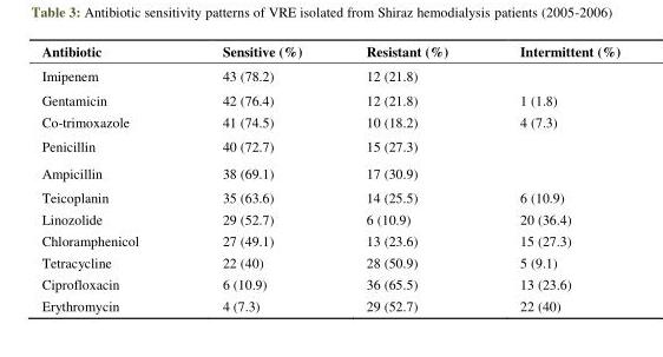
<table><thead><tr><td>Antibiotic</td><td>Sensitive (%)</td><td>Resistant (%)</td><td>Intermittent (%)</td></tr></thead><tbody><tr><td>Imipenem</td><td>43 (78.2)</td><td>12 (21.8)</td><td></td></tr><tr><td>Gentamicin</td><td>42 (76.4)</td><td>12 (21.8)</td><td>1 (1.8)</td></tr><tr><td>Co-trimoxazole</td><td>41 (74.5)</td><td>10 (18.2)</td><td>4 (7.3)</td></tr><tr><td>Penicillin</td><td>40 (72.7)</td><td>15 (27.3)</td><td></td></tr><tr><td>Ampicillin</td><td>38 (69.1)</td><td>17 (30.9)</td><td></td></tr><tr><td>Teicoplanin</td><td>35 (63.6)</td><td>14 (25.5)</td><td>6 (10.9)</td></tr><tr><td>Linozolide</td><td>29 (52.7)</td><td>6 (10.9)</td><td>20 (36.4)</td></tr><tr><td>Chloramphenicol</td><td>27 (49.1)</td><td>13 (23.6)</td><td>15 (27.3)</td></tr><tr><td>Tetracycline</td><td>22 (40)</td><td>28 (50.9)</td><td>5 (9.1)</td></tr><tr><td>Ciprofloxacin</td><td>6 (10.9)</td><td>36 (65.5)</td><td>13 (23.6)</td></tr><tr><td>Erythromycin</td><td>4 (7.3)</td><td>29 (52.7)</td><td>22 (40)</td></tr></tbody></table>